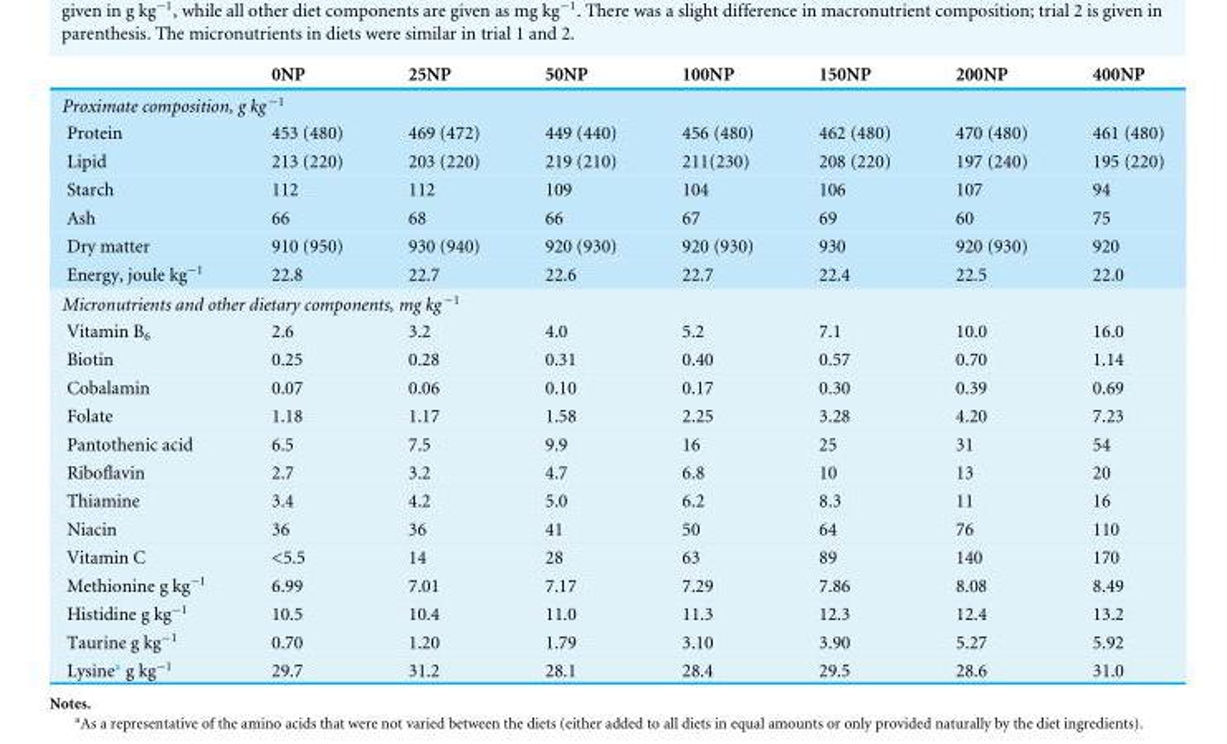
<table><thead><tr><td></td><td>0NP</td><td>25NP</td><td>50NP</td><td>100NP</td><td>150NP</td><td>200NP</td><td>400NP</td></tr></thead><tbody><tr><td colspan="8">Proximate composition, g kg <sup>−1</sup></td></tr><tr><td>Protein</td><td>453 (480)</td><td>469 (472)</td><td>449 (440)</td><td>456 (480)</td><td>462 (480)</td><td>470 (480)</td><td>461 (480)</td></tr><tr><td>Lipid</td><td>213 (220)</td><td>203 (220)</td><td>219 (210)</td><td>211(230)</td><td>208 (220)</td><td>197 (240)</td><td>195 (220)</td></tr><tr><td>Starch</td><td>112</td><td>112</td><td>109</td><td>104</td><td>106</td><td>107</td><td>94</td></tr><tr><td>Ash</td><td>66</td><td>68</td><td>66</td><td>67</td><td>69</td><td>60</td><td>75</td></tr><tr><td>Dry matter</td><td>910 (950)</td><td>930 (940)</td><td>920 (930)</td><td>920 (930)</td><td>930</td><td>920 (930)</td><td>920</td></tr><tr><td>Energy, joule kg<sup>−1</sup></td><td>22.8</td><td>22.7</td><td>22.6</td><td>22.7</td><td>22.4</td><td>22.5</td><td>22.0</td></tr><tr><td colspan="8">Micronutrients and other dietary components, mg kg <sup>−1</sup></td></tr><tr><td>Vitamin B<sub>6</sub></td><td>2.6</td><td>3.2</td><td>4.0</td><td>5.2</td><td>7.1</td><td>10.0</td><td>16.0</td></tr><tr><td>Biotin</td><td>0.25</td><td>0.28</td><td>0.31</td><td>0.40</td><td>0.57</td><td>0.70</td><td>1.14</td></tr><tr><td>Cobalamin</td><td>0.07</td><td>0.06</td><td>0.10</td><td>0.17</td><td>0.30</td><td>0.39</td><td>0.69</td></tr><tr><td>Folate</td><td>1.18</td><td>1.17</td><td>1.58</td><td>2.25</td><td>3.28</td><td>4.20</td><td>7.23</td></tr><tr><td>Pantothenic acid</td><td>6.5</td><td>7.5</td><td>9.9</td><td>16</td><td>25</td><td>31</td><td>54</td></tr><tr><td>Riboflavin</td><td>2.7</td><td>3.2</td><td>4.7</td><td>6.8</td><td>10</td><td>13</td><td>20</td></tr><tr><td>Thiamine</td><td>3.4</td><td>4.2</td><td>5.0</td><td>6.2</td><td>8.3</td><td>11</td><td>16</td></tr><tr><td>Niacin</td><td>36</td><td>36</td><td>41</td><td>50</td><td>64</td><td>76</td><td>110</td></tr><tr><td>Vitamin C</td><td>&lt;5.5</td><td>14</td><td>28</td><td>63</td><td>89</td><td>140</td><td>170</td></tr><tr><td>Methionine g kg<sup>−1</sup></td><td>6.99</td><td>7.01</td><td>7.17</td><td>7.29</td><td>7.86</td><td>8.08</td><td>8.49</td></tr><tr><td>Histidine g kg<sup>−1</sup></td><td>10.5</td><td>10.4</td><td>11.0</td><td>11.3</td><td>12.3</td><td>12.4</td><td>13.2</td></tr><tr><td>Taurine g kg<sup>−1</sup></td><td>0.70</td><td>1.20</td><td>1.79</td><td>3.10</td><td>3.90</td><td>5.27</td><td>5.92</td></tr><tr><td>Lysine<sup>a</sup> g kg<sup>−1</sup></td><td>29.7</td><td>31.2</td><td>28.1</td><td>28.4</td><td>29.5</td><td>28.6</td><td>31.0</td></tr></tbody></table>